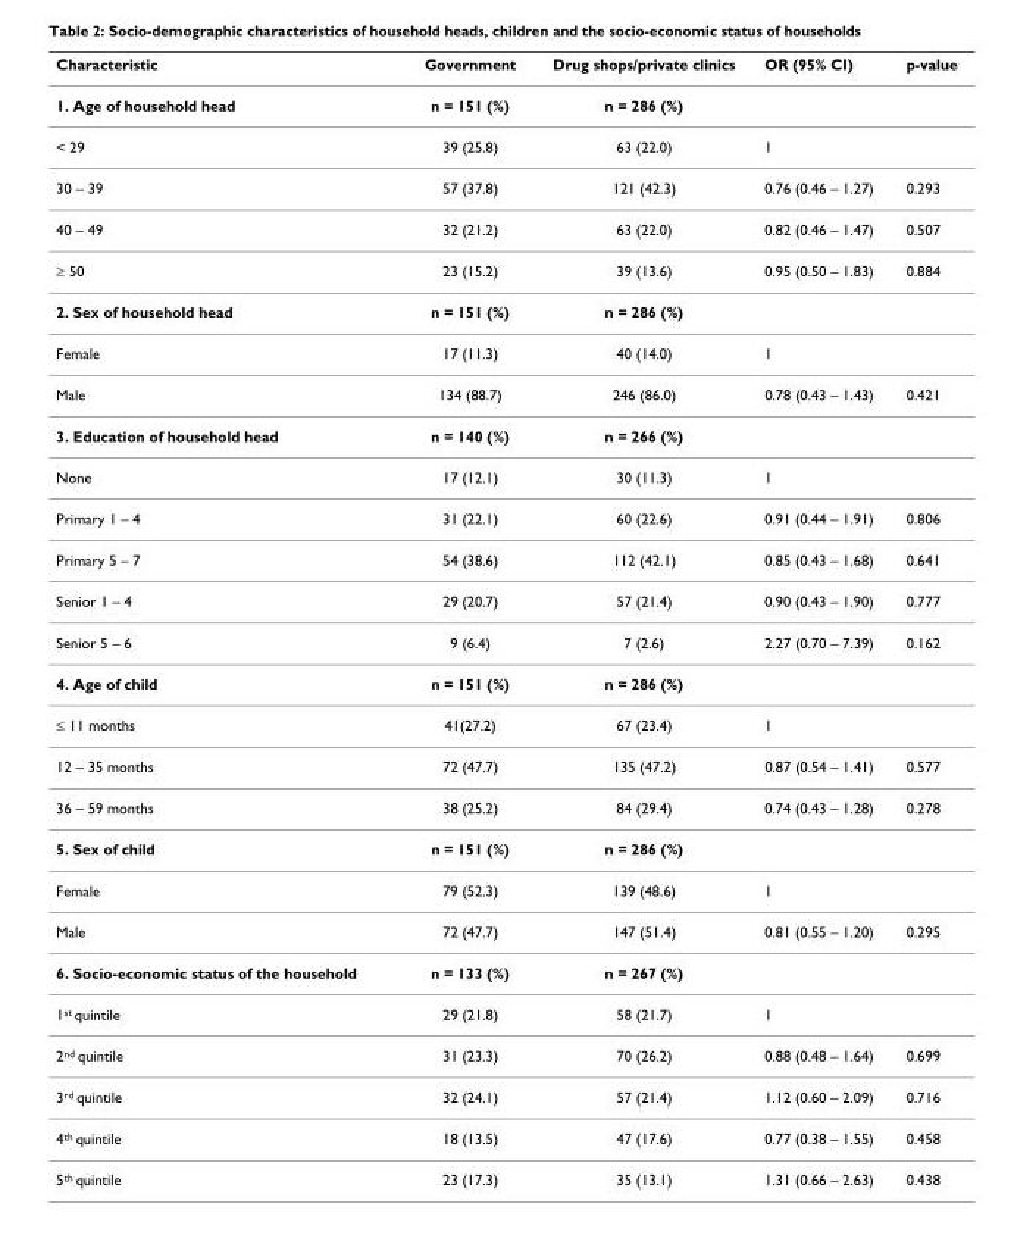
<table><thead><tr><td>Characteristic</td><td>Government</td><td>Drug shops/private clinics</td><td>OR (95% CI)</td><td>p-value</td></tr></thead><tbody><tr><td>1. Age of household head</td><td>n = 151 (%)</td><td>n = 286 (%)</td><td></td><td></td></tr><tr><td>&lt; 29</td><td>39 (25.8)</td><td>63 (22.0)</td><td>1</td><td></td></tr><tr><td>30 – 39</td><td>57 (37.8)</td><td>121 (42.3)</td><td>0.76 (0.46 – 1.27)</td><td>0.293</td></tr><tr><td>40 – 49</td><td>32 (21.2)</td><td>63 (22.0)</td><td>0.82 (0.46 – 1.47)</td><td>0.507</td></tr><tr><td>≥ 50</td><td>23 (15.2)</td><td>39 (13.6)</td><td>0.95 (0.50 – 1.83)</td><td>0.884</td></tr><tr><td>2. Sex of household head</td><td>n = 151 (%)</td><td>n = 286 (%)</td><td></td><td></td></tr><tr><td>Female</td><td>17 (11.3)</td><td>40 (14.0)</td><td>1</td><td></td></tr><tr><td>Male</td><td>134 (88.7)</td><td>246 (86.0)</td><td>0.78 (0.43 – 1.43)</td><td>0.421</td></tr><tr><td>3. Education of household head</td><td>n = 140 (%)</td><td>n = 266 (%)</td><td></td><td></td></tr><tr><td>None</td><td>17 (12.1)</td><td>30 (11.3)</td><td>1</td><td></td></tr><tr><td>Primary 1 – 4</td><td>31 (22.1)</td><td>60 (22.6)</td><td>0.91 (0.44 – 1.91)</td><td>0.806</td></tr><tr><td>Primary 5 – 7</td><td>54 (38.6)</td><td>112 (42.1)</td><td>0.85 (0.43 – 1.68)</td><td>0.641</td></tr><tr><td>Senior 1 – 4</td><td>29 (20.7)</td><td>57 (21.4)</td><td>0.90 (0.43 – 1.90)</td><td>0.777</td></tr><tr><td>Senior 5 – 6</td><td>9 (6.4)</td><td>7 (2.6)</td><td>2.27 (0.70 – 7.39)</td><td>0.162</td></tr><tr><td>4. Age of child</td><td>n = 151 (%)</td><td>n = 286 (%)</td><td></td><td></td></tr><tr><td>≤ 11 months</td><td>41(27.2)</td><td>67 (23.4)</td><td>1</td><td></td></tr><tr><td>12 – 35 months</td><td>72 (47.7)</td><td>135 (47.2)</td><td>0.87 (0.54 – 1.41)</td><td>0.577</td></tr><tr><td>36 – 59 months</td><td>38 (25.2)</td><td>84 (29.4)</td><td>0.74 (0.43 – 1.28)</td><td>0.278</td></tr><tr><td>5. Sex of child</td><td>n = 151 (%)</td><td>n = 286 (%)</td><td></td><td></td></tr><tr><td>Female</td><td>79 (52.3)</td><td>139 (48.6)</td><td>1</td><td></td></tr><tr><td>Male</td><td>72 (47.7)</td><td>147 (51.4)</td><td>0.81 (0.55 – 1.20)</td><td>0.295</td></tr><tr><td>6. Socio-economic status of the household</td><td>n = 133 (%)</td><td>n = 267 (%)</td><td></td><td></td></tr><tr><td>1<sup>st</sup> quintile</td><td>29 (21.8)</td><td>58 (21.7)</td><td>1</td><td></td></tr><tr><td>2<sup>nd</sup> quintile</td><td>31 (23.3)</td><td>70 (26.2)</td><td>0.88 (0.48 – 1.64)</td><td>0.699</td></tr><tr><td>3<sup>rd</sup> quintile</td><td>32 (24.1)</td><td>57 (21.4)</td><td>1.12 (0.60 – 2.09)</td><td>0.716</td></tr><tr><td>4<sup>th</sup> quintile</td><td>18 (13.5)</td><td>47 (17.6)</td><td>0.77 (0.38 – 1.55)</td><td>0.458</td></tr><tr><td>5<sup>th</sup> quintile</td><td>23 (17.3)</td><td>35 (13.1)</td><td>1.31 (0.66 – 2.63)</td><td>0.438</td></tr></tbody></table>